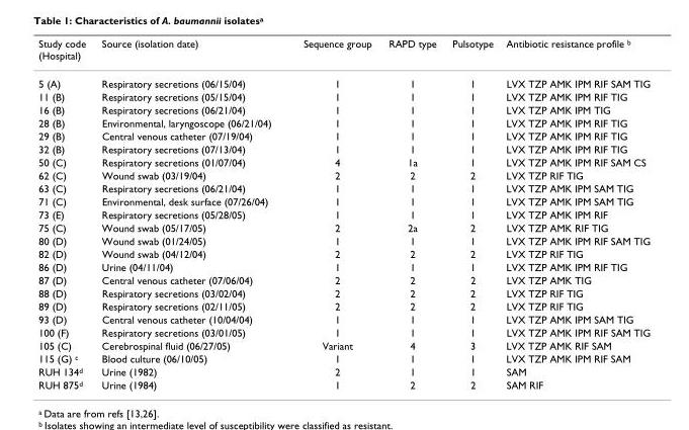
<table><thead><tr><td>Study code (Hospital)</td><td>Source (isolation date)</td><td>Sequence group</td><td>RAPD type</td><td>Pulsotype</td><td>Antibiotic resistance profile <sup>b</sup></td></tr></thead><tbody><tr><td>5 (A)</td><td>Respiratory secretions (06/15/04)</td><td>1</td><td>1</td><td>1</td><td>LVX TZP AMK IPM RIF SAM TIG</td></tr><tr><td>11 (B)</td><td>Respiratory secretions (05/15/04)</td><td>1</td><td>1</td><td>1</td><td>LVX TZP AMK IPM RIF TIG</td></tr><tr><td>16 (B)</td><td>Respiratory secretions (06/21/04)</td><td>1</td><td>1</td><td>1</td><td>LVX TZP AMK IPM TIG</td></tr><tr><td>28 (B)</td><td>Environmental, laryngoscope (06/21/04)</td><td>1</td><td>1</td><td>1</td><td>LVX TZP AMK IPM RIF TIG</td></tr><tr><td>29 (B)</td><td>Central venous catheter (07/19/04)</td><td>1</td><td>1</td><td>1</td><td>LVX TZP AMK IPM RIF TIG</td></tr><tr><td>32 (B)</td><td>Respiratory secretions (07/13/04)</td><td>1</td><td>1</td><td>1</td><td>LVX TZP AMK IPM RIF TIG</td></tr><tr><td>50 (C)</td><td>Respiratory secretions (01/07/04)</td><td>4</td><td>1a</td><td>1</td><td>LVX TZP AMK IPM RIF SAM CS</td></tr><tr><td>62 (C)</td><td>Wound swab (03/19/04)</td><td>2</td><td>2</td><td>2</td><td>LVX TZP RIF TIG</td></tr><tr><td>63 (C)</td><td>Respiratory secretions (06/21/04)</td><td>1</td><td>1</td><td>1</td><td>LVX TZP AMK IPM SAM TIG</td></tr><tr><td>71 (C)</td><td>Environmental, desk surface (07/26/04)</td><td>1</td><td>1</td><td>1</td><td>LVX TZP AMK IPM SAM TIG</td></tr><tr><td>73 (E)</td><td>Respiratory secretions (05/28/05)</td><td>1</td><td>1</td><td>1</td><td>LVX TZP AMK IPM RIF</td></tr><tr><td>75 (C)</td><td>Wound swab (05/17/05)</td><td>2</td><td>2a</td><td>2</td><td>LVX TZP AMK RIF TIG</td></tr><tr><td>80 (D)</td><td>Wound swab (01/24/05)</td><td>1</td><td>1</td><td>1</td><td>LVX TZP AMK IPM RIF SAM TIG</td></tr><tr><td>82 (D)</td><td>Wound swab (04/12/04)</td><td>2</td><td>2</td><td>2</td><td>LVX TZP RIF TIG</td></tr><tr><td>86 (D)</td><td>Urine (04/11/04)</td><td>1</td><td>1</td><td>1</td><td>LVX TZP AMK IPM RIF TIG</td></tr><tr><td>87 (D)</td><td>Central venous catheter (07/06/04)</td><td>2</td><td>2</td><td>2</td><td>LVX TZP AMK TIG</td></tr><tr><td>88 (D)</td><td>Respiratory secretions (03/02/04)</td><td>2</td><td>2</td><td>2</td><td>LVX TZP RIF TIG</td></tr><tr><td>89 (D)</td><td>Respiratory secretions (02/11/05)</td><td>2</td><td>2</td><td>2</td><td>LVX TZP RIF TIG</td></tr><tr><td>93 (D)</td><td>Central venous catheter (10/04/04)</td><td>1</td><td>1</td><td>1</td><td>LVX TZP AMK IPM SAM TIG</td></tr><tr><td>100 (F)</td><td>Respiratory secretions (03/01/05)</td><td>1</td><td>1</td><td>1</td><td>LVX TZP AMK IPM RIF SAM TIG</td></tr><tr><td>105 (C)</td><td>Cerebrospinal fluid (06/27/05)</td><td>Variant</td><td>4</td><td>3</td><td>LVX TZP AMK RIF SAM</td></tr><tr><td>115 (G) <sup>c</sup></td><td>Blood culture (06/10/05)</td><td>1</td><td>1</td><td>1</td><td>LVX TZP AMK IPM RIF SAM</td></tr><tr><td>RUH 134<sup>d</sup></td><td>Urine (1982)</td><td>2</td><td>1</td><td>1</td><td>SAM</td></tr><tr><td>RUH 875<sup>d</sup></td><td>Urine (1984)</td><td>1</td><td>2</td><td>2</td><td>SAM RIF</td></tr></tbody></table>